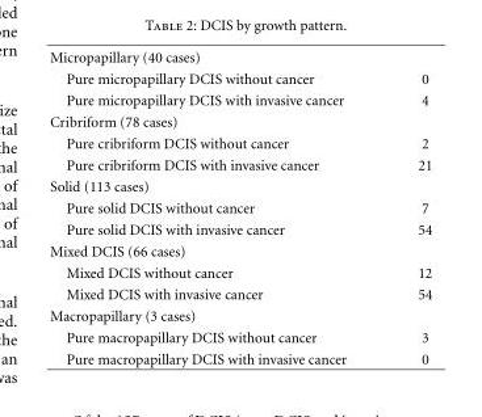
<table><tbody><tr><td colspan="2">Micropapillary (40 cases)</td></tr><tr><td>Pure micropapillary DCIS without cancer</td><td>0</td></tr><tr><td>Pure micropapillary DCIS with invasive cancer</td><td>4</td></tr><tr><td colspan="2">Cribriform (78 cases)</td></tr><tr><td>Pure cribriform DCIS without cancer</td><td>2</td></tr><tr><td>Pure cribriform DCIS with invasive cancer</td><td>21</td></tr><tr><td colspan="2">Solid (113 cases)</td></tr><tr><td>Pure solid DCIS without cancer</td><td>7</td></tr><tr><td>Pure solid DCIS with invasive cancer</td><td>54</td></tr><tr><td colspan="2">Mixed DCIS (66 cases)</td></tr><tr><td>Mixed DCIS without cancer</td><td>12</td></tr><tr><td>Mixed DCIS with invasive cancer</td><td>54</td></tr><tr><td colspan="2">Macropapillary (3 cases)</td></tr><tr><td>Pure macropapillary DCIS without cancer</td><td>3</td></tr><tr><td>Pure macropapillary DCIS with invasive cancer</td><td>0</td></tr></tbody></table>